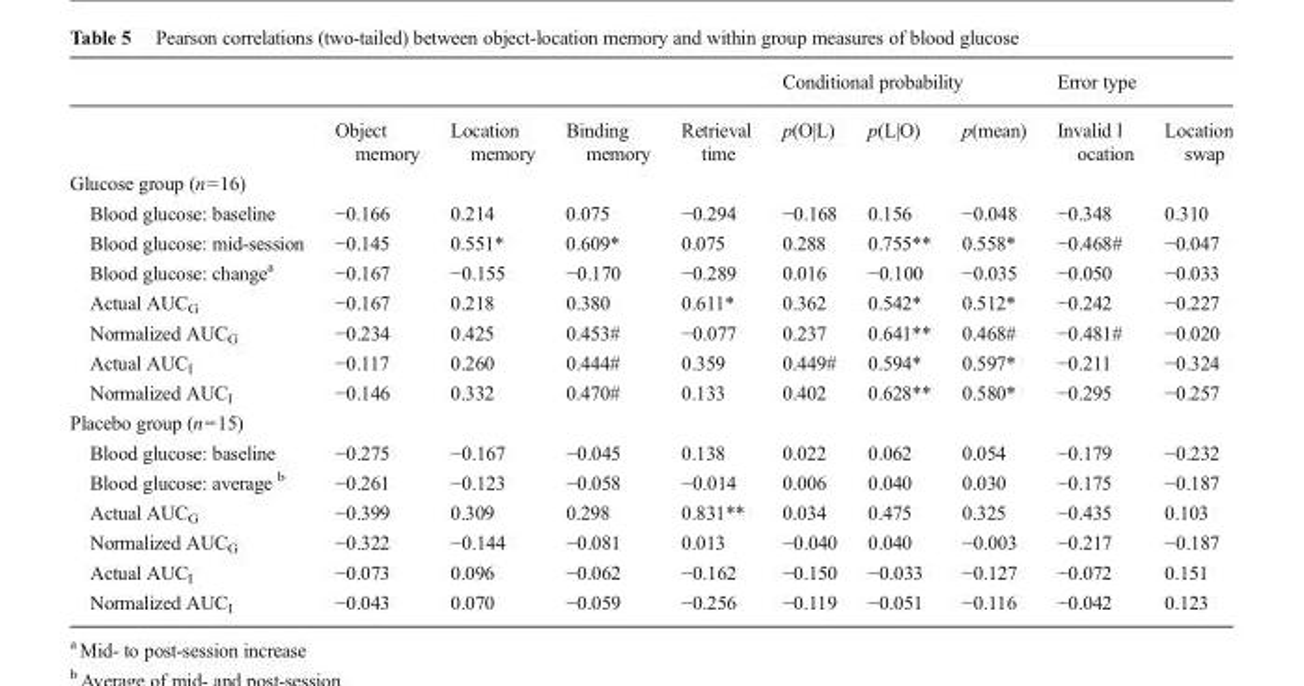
<table><thead><tr><td rowspan="2"></td><td rowspan="2">Object memory</td><td rowspan="2">Location memory</td><td rowspan="2">Binding memory</td><td rowspan="2">Retrieval time</td><td colspan="3">Conditional probability</td><td colspan="2">Error type</td></tr><tr><td>p(O|L)</td><td>p(L|O)</td><td>p(mean)</td><td>Invalid l ocation</td><td>Location swap</td></tr></thead><tbody><tr><td colspan="10">Glucose group (n=16)</td></tr><tr><td>Blood glucose: baseline</td><td>−0.166</td><td>0.214</td><td>0.075</td><td>−0.294</td><td>−0.168</td><td>0.156</td><td>−0.048</td><td>−0.348</td><td>0.310</td></tr><tr><td>Blood glucose: mid-session</td><td>−0.145</td><td>0.551*</td><td>0.609*</td><td>0.075</td><td>0.288</td><td>0.755**</td><td>0.558*</td><td>−0.468#</td><td>−0.047</td></tr><tr><td>Blood glucose: change<sup>a</sup></td><td>−0.167</td><td>−0.155</td><td>−0.170</td><td>−0.289</td><td>0.016</td><td>−0.100</td><td>−0.035</td><td>−0.050</td><td>−0.033</td></tr><tr><td>Actual AUC<sub>G</sub></td><td>−0.167</td><td>0.218</td><td>0.380</td><td>0.611*</td><td>0.362</td><td>0.542*</td><td>0.512*</td><td>−0.242</td><td>−0.227</td></tr><tr><td>Normalized AUC<sub>G</sub></td><td>−0.234</td><td>0.425</td><td>0.453#</td><td>−0.077</td><td>0.237</td><td>0.641**</td><td>0.468#</td><td>−0.481#</td><td>−0.020</td></tr><tr><td>Actual AUC<sub>I</sub></td><td>−0.117</td><td>0.260</td><td>0.444#</td><td>0.359</td><td>0.449#</td><td>0.594*</td><td>0.597*</td><td>−0.211</td><td>−0.324</td></tr><tr><td>Normalized AUC<sub>I</sub></td><td>−0.146</td><td>0.332</td><td>0.470#</td><td>0.133</td><td>0.402</td><td>0.628**</td><td>0.580*</td><td>−0.295</td><td>−0.257</td></tr><tr><td colspan="10">Placebo group (n=15)</td></tr><tr><td>Blood glucose: baseline</td><td>−0.275</td><td>−0.167</td><td>−0.045</td><td>0.138</td><td>0.022</td><td>0.062</td><td>0.054</td><td>−0.179</td><td>−0.232</td></tr><tr><td>Blood glucose: average <sup>b</sup></td><td>−0.261</td><td>−0.123</td><td>−0.058</td><td>−0.014</td><td>0.006</td><td>0.040</td><td>0.030</td><td>−0.175</td><td>−0.187</td></tr><tr><td>Actual AUC<sub>G</sub></td><td>−0.399</td><td>0.309</td><td>0.298</td><td>0.831**</td><td>0.034</td><td>0.475</td><td>0.325</td><td>−0.435</td><td>0.103</td></tr><tr><td>Normalized AUC<sub>G</sub></td><td>−0.322</td><td>−0.144</td><td>−0.081</td><td>0.013</td><td>−0.040</td><td>0.040</td><td>−0.003</td><td>−0.217</td><td>−0.187</td></tr><tr><td>Actual AUC<sub>I</sub></td><td>−0.073</td><td>0.096</td><td>−0.062</td><td>−0.162</td><td>−0.150</td><td>−0.033</td><td>−0.127</td><td>−0.072</td><td>0.151</td></tr><tr><td>Normalized AUC<sub>I</sub></td><td>−0.043</td><td>0.070</td><td>−0.059</td><td>−0.256</td><td>−0.119</td><td>−0.051</td><td>−0.116</td><td>−0.042</td><td>0.123</td></tr></tbody></table>